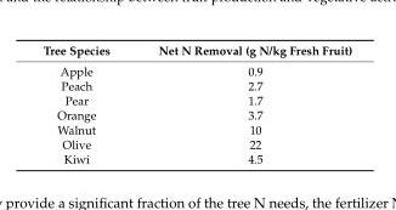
<table><thead><tr><td>Tree Species</td><td>Net N Removal (g N/kg Fresh Fruit)</td></tr></thead><tbody><tr><td>Apple</td><td>0.9</td></tr><tr><td>Peach</td><td>2.7</td></tr><tr><td>Pear</td><td>1.7</td></tr><tr><td>Orange</td><td>3.7</td></tr><tr><td>Walnut</td><td>10</td></tr><tr><td>Olive</td><td>22</td></tr><tr><td>Kiwi</td><td>4.5</td></tr></tbody></table>